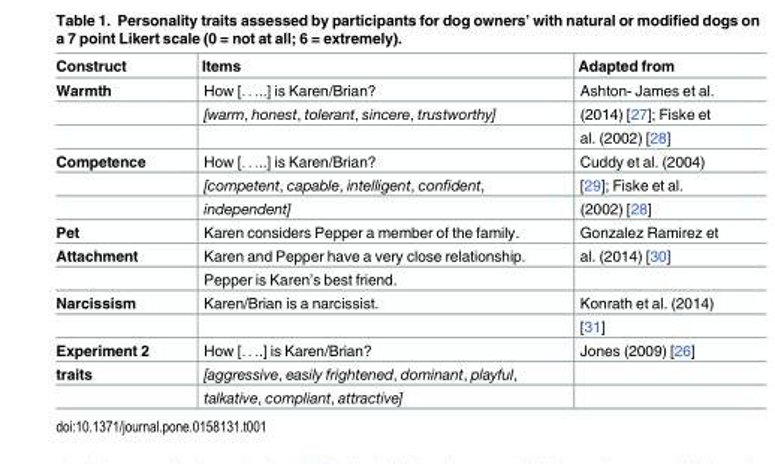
<table><thead><tr><td>Construct</td><td>Items</td><td>Adapted from</td></tr></thead><tbody><tr><td rowspan="3">Warmth</td><td>How [. . ...] is Karen/Brian?</td><td>Ashton- James et al.</td></tr><tr><td>[warm, honest, tolerant, sincere, trustworthy]</td><td>(2014) [27]; Fiske et</td></tr><tr><td></td><td>al. (2002) [28]</td></tr><tr><td rowspan="3">Competence</td><td>How [. . ...] is Karen/Brian?</td><td>Cuddy et al. (2004)</td></tr><tr><td>[competent, capable, intelligent, confident,</td><td>[29]; Fiske et al.</td></tr><tr><td>independent]</td><td>(2002) [28]</td></tr><tr><td>Pet</td><td>Karen considers Pepper a member of the family.</td><td>Gonzalez Ramirez et</td></tr><tr><td rowspan="2">Attachment</td><td>Karen and Pepper have a very close relationship.</td><td>al. (2014) [30]</td></tr><tr><td>Pepper is Karen’s best friend.</td><td></td></tr><tr><td rowspan="2">Narcissism</td><td>Karen/Brian is a narcissist.</td><td>Konrath et al. (2014)</td></tr><tr><td></td><td>[31]</td></tr><tr><td>Experiment 2</td><td>How [. . ..] is Karen/Brian?</td><td>Jones (2009) [26]</td></tr><tr><td rowspan="2">traits</td><td>[aggressive, easily frightened, dominant, playful,</td><td></td></tr><tr><td>talkative, compliant, attractive]</td><td></td></tr></tbody></table>